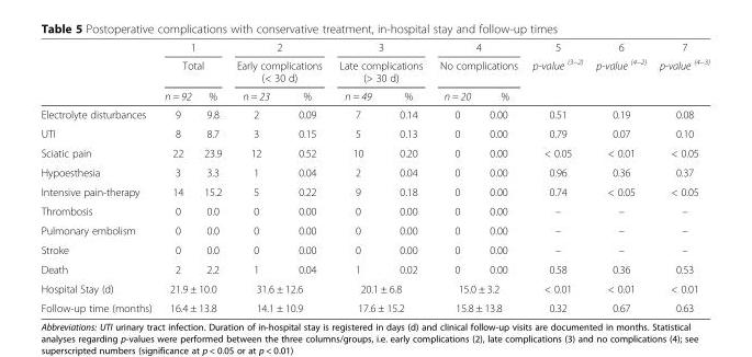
<table><thead><tr><td rowspan="3"></td><td rowspan="2" colspan="2">1 Total</td><td rowspan="2" colspan="2">2 Early complications (&lt; 30 d)</td><td rowspan="2" colspan="2">3 Late complications (&gt; 30 d)</td><td rowspan="2" colspan="2">4 No complications</td><td rowspan="3">5 p-value (3–2)</td><td rowspan="3">6 p-value <sup>(4–2)</sup></td><td rowspan="3">7 p-value (4–3)</td></tr><tr></tr><tr><td>n = 92</td><td>%</td><td>n = 23</td><td>%</td><td>n = 49</td><td>%</td><td>n = 20</td><td>%</td></tr></thead><tbody><tr><td>Electrolyte disturbances</td><td>9</td><td>9.8</td><td>2</td><td>0.09</td><td>7</td><td>0.14</td><td>0</td><td>0.00</td><td>0.51</td><td>0.19</td><td>0.08</td></tr><tr><td>UTI</td><td>8</td><td>8.7</td><td>3</td><td>0.15</td><td>5</td><td>0.13</td><td>0</td><td>0.00</td><td>0.79</td><td>0.07</td><td>0.10</td></tr><tr><td>Sciatic pain</td><td>22</td><td>23.9</td><td>12</td><td>0.52</td><td>10</td><td>0.20</td><td>0</td><td>0.00</td><td>&lt; 0.05</td><td>&lt; 0.01</td><td>&lt; 0.05</td></tr><tr><td>Hypoesthesia</td><td>3</td><td>3.3</td><td>1</td><td>0.04</td><td>2</td><td>0.04</td><td>0</td><td>0.00</td><td>0.96</td><td>0.36</td><td>0.37</td></tr><tr><td>Intensive pain-therapy</td><td>14</td><td>15.2</td><td>5</td><td>0.22</td><td>9</td><td>0.18</td><td>0</td><td>0.00</td><td>0.74</td><td>&lt; 0.05</td><td>&lt; 0.05</td></tr><tr><td>Thrombosis</td><td>0</td><td>0.0</td><td>0</td><td>0.00</td><td>0</td><td>0.00</td><td>0</td><td>0.00</td><td>–</td><td>–</td><td>–</td></tr><tr><td>Pulmonary embolism</td><td>0</td><td>0.0</td><td>0</td><td>0.00</td><td>0</td><td>0.00</td><td>0</td><td>0.00</td><td>–</td><td>–</td><td>–</td></tr><tr><td>Stroke</td><td>0</td><td>0.0</td><td>0</td><td>0.00</td><td>0</td><td>0.00</td><td>0</td><td>0.00</td><td>–</td><td>–</td><td>–</td></tr><tr><td>Death</td><td>2</td><td>2.2</td><td>1</td><td>0.04</td><td>1</td><td>0.02</td><td>0</td><td>0.00</td><td>0.58</td><td>0.36</td><td>0.53</td></tr><tr><td>Hospital Stay (d)</td><td colspan="2">21.9 ± 10.0</td><td colspan="2">31.6 ± 12.6</td><td colspan="2">20.1 ± 6.8</td><td colspan="2">15.0 ± 3.2</td><td>&lt; 0.01</td><td>&lt; 0.01</td><td>&lt; 0.01</td></tr><tr><td>Follow-up time (months)</td><td colspan="2">16.4 ± 13.8</td><td colspan="2">14.1 ± 10.9</td><td colspan="2">17.6 ± 15.2</td><td colspan="2">15.8 ± 13.8</td><td>0.32</td><td>0.67</td><td>0.63</td></tr></tbody></table>